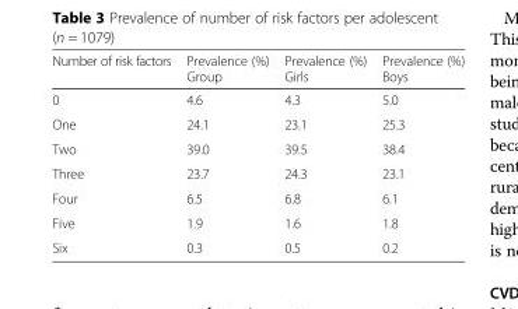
<table><thead><tr><td>Number of risk factors</td><td>Prevalence (%) Group</td><td>Prevalence (%) Girls</td><td>Prevalence (%) Boys</td></tr></thead><tbody><tr><td>0</td><td>4.6</td><td>4.3</td><td>5.0</td></tr><tr><td>One</td><td>24.1</td><td>23.1</td><td>25.3</td></tr><tr><td>Two</td><td>39.0</td><td>39.5</td><td>38.4</td></tr><tr><td>Three</td><td>23.7</td><td>24.3</td><td>23.1</td></tr><tr><td>Four</td><td>6.5</td><td>6.8</td><td>6.1</td></tr><tr><td>Five</td><td>1.9</td><td>1.6</td><td>1.8</td></tr><tr><td>Six</td><td>0.3</td><td>0.5</td><td>0.2</td></tr></tbody></table>